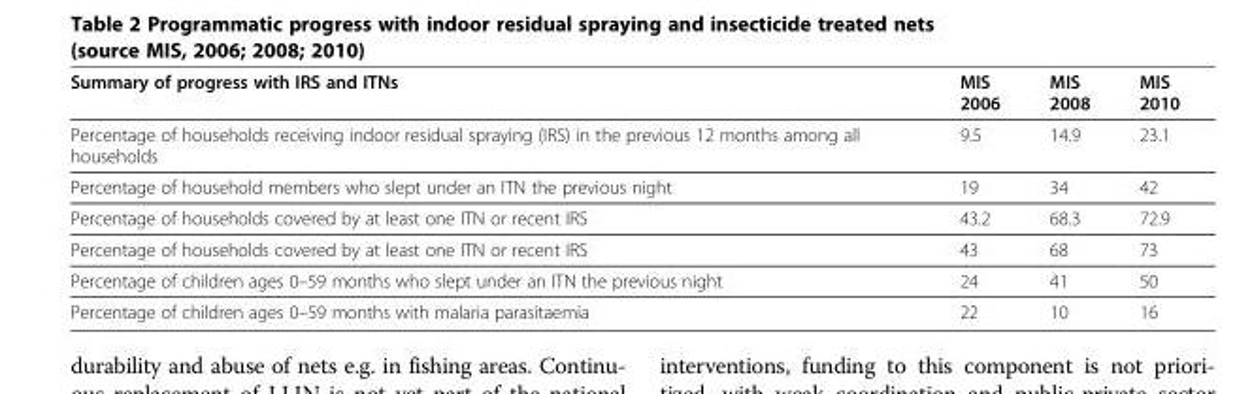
<table><thead><tr><td>Summary of progress with IRS and ITNs</td><td>MIS 2006</td><td>MIS 2008</td><td>MIS 2010</td></tr></thead><tbody><tr><td>Percentage of households receiving indoor residual spraying (IRS) in the previous 12 months among all households</td><td>9.5</td><td>14.9</td><td>23.1</td></tr><tr><td>Percentage of household members who slept under an ITN the previous night</td><td>19</td><td>34</td><td>42</td></tr><tr><td>Percentage of households covered by at least one ITN or recent IRS</td><td>43.2</td><td>68.3</td><td>72.9</td></tr><tr><td>Percentage of households covered by at least one ITN or recent IRS</td><td>43</td><td>68</td><td>73</td></tr><tr><td>Percentage of children ages 0–59 months who slept under an ITN the previous night</td><td>24</td><td>41</td><td>50</td></tr><tr><td>Percentage of children ages 0–59 months with malaria parasitaemia</td><td>22</td><td>10</td><td>16</td></tr></tbody></table>